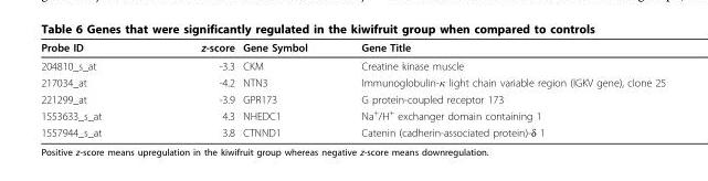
<table><thead><tr><td>Probe ID</td><td>z-score</td><td>Gene Symbol</td><td>Gene Title</td></tr></thead><tbody><tr><td>204810_s_at</td><td>-3.3</td><td>CKM</td><td>Creatine kinase muscle</td></tr><tr><td>217034_at</td><td>-4.2</td><td>NTN3</td><td>Immunoglobulin-κ light chain variable region (IGKV gene), clone 25</td></tr><tr><td>221299_at</td><td>-3.9</td><td>GPR173</td><td>G protein-coupled receptor 173</td></tr><tr><td>1553633_s_at</td><td>4.3</td><td>NHEDC1</td><td>Na<sup>+</sup>/H<sup>+</sup> exchanger domain containing 1</td></tr><tr><td>1557944_s_at</td><td>3.8</td><td>CTNND1</td><td>Catenin (cadherin-associated protein)-δ 1</td></tr></tbody></table>